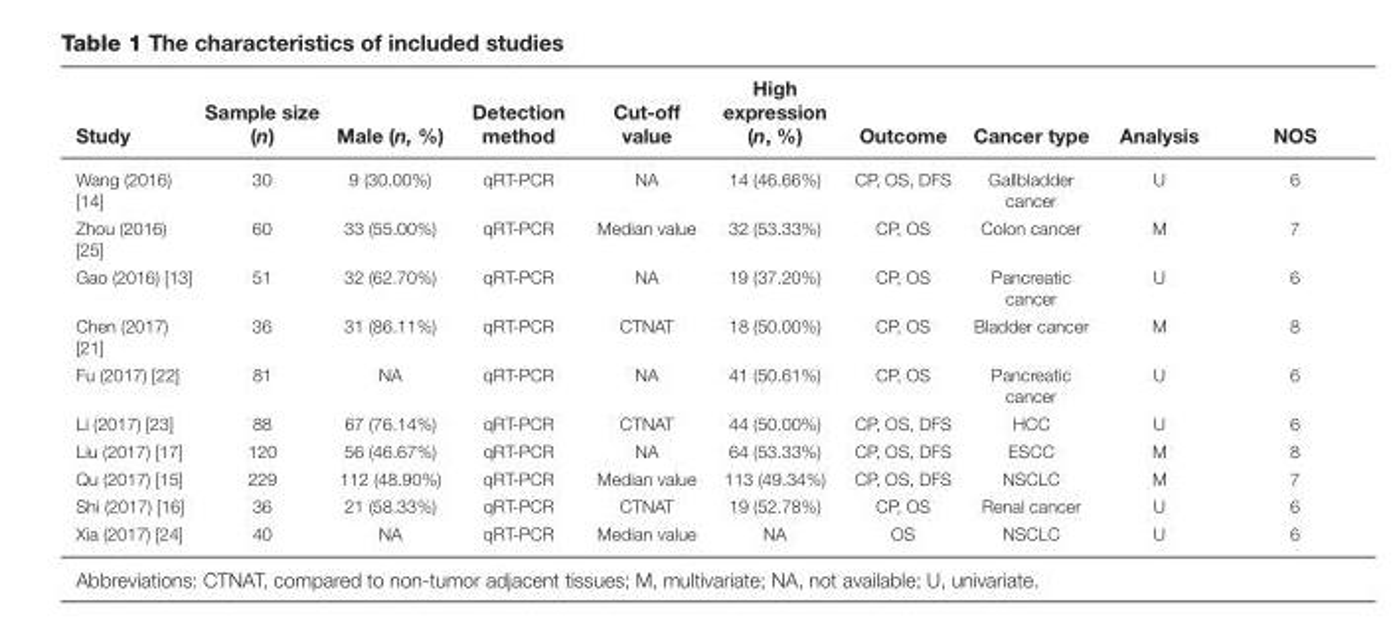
<table><thead><tr><td>Study</td><td>Sample size (n)</td><td>Male (n, %)</td><td>Detection method</td><td>Cut-off value</td><td>High expression (n, %)</td><td>Outcome</td><td>Cancer type</td><td>Analysis</td><td>NOS</td></tr></thead><tbody><tr><td>Wang (2016) [14]</td><td>30</td><td>9 (30.00%)</td><td>qRT-PCR</td><td>NA</td><td>14 (46.66%)</td><td>CP, OS, DFS</td><td>Gallbladder cancer</td><td>U</td><td>6</td></tr><tr><td>Zhou (2016) [25]</td><td>60</td><td>33 (55.00%)</td><td>qRT-PCR</td><td>Median value</td><td>32 (53.33%)</td><td>CP, OS</td><td>Colon cancer</td><td>M</td><td>7</td></tr><tr><td>Gao (2016) [13]</td><td>51</td><td>32 (62.70%)</td><td>qRT-PCR</td><td>NA</td><td>19 (37.20%)</td><td>CP, OS</td><td>Pancreatic cancer</td><td>U</td><td>6</td></tr><tr><td>Chen (2017) [21]</td><td>36</td><td>31 (86.11%)</td><td>qRT-PCR</td><td>CTNAT</td><td>18 (50.00%)</td><td>CP, OS</td><td>Bladder cancer</td><td>M</td><td>8</td></tr><tr><td>Fu (2017) [22]</td><td>81</td><td>NA</td><td>qRT-PCR</td><td>NA</td><td>41 (50.61%)</td><td>CP, OS</td><td>Pancreatic cancer</td><td>U</td><td>6</td></tr><tr><td>Li (2017) [23]</td><td>88</td><td>67 (76.14%)</td><td>qRT-PCR</td><td>CTNAT</td><td>44 (50.00%)</td><td>CP, OS, DFS</td><td>HCC</td><td>U</td><td>6</td></tr><tr><td>Liu (2017) [17]</td><td>120</td><td>56 (46.67%)</td><td>qRT-PCR</td><td>NA</td><td>64 (53.33%)</td><td>CP, OS, DFS</td><td>ESCC</td><td>M</td><td>8</td></tr><tr><td>Qu (2017) [15]</td><td>229</td><td>112 (48.90%)</td><td>qRT-PCR</td><td>Median value</td><td>113 (49.34%)</td><td>CP, OS, DFS</td><td>NSCLC</td><td>M</td><td>7</td></tr><tr><td>Shi (2017) [16]</td><td>36</td><td>21 (58.33%)</td><td>qRT-PCR</td><td>CTNAT</td><td>19 (52.78%)</td><td>CP, OS</td><td>Renal cancer</td><td>U</td><td>6</td></tr><tr><td>Xia (2017) [24]</td><td>40</td><td>NA</td><td>qRT-PCR</td><td>Median value</td><td>NA</td><td>OS</td><td>NSCLC</td><td>U</td><td>6</td></tr></tbody></table>